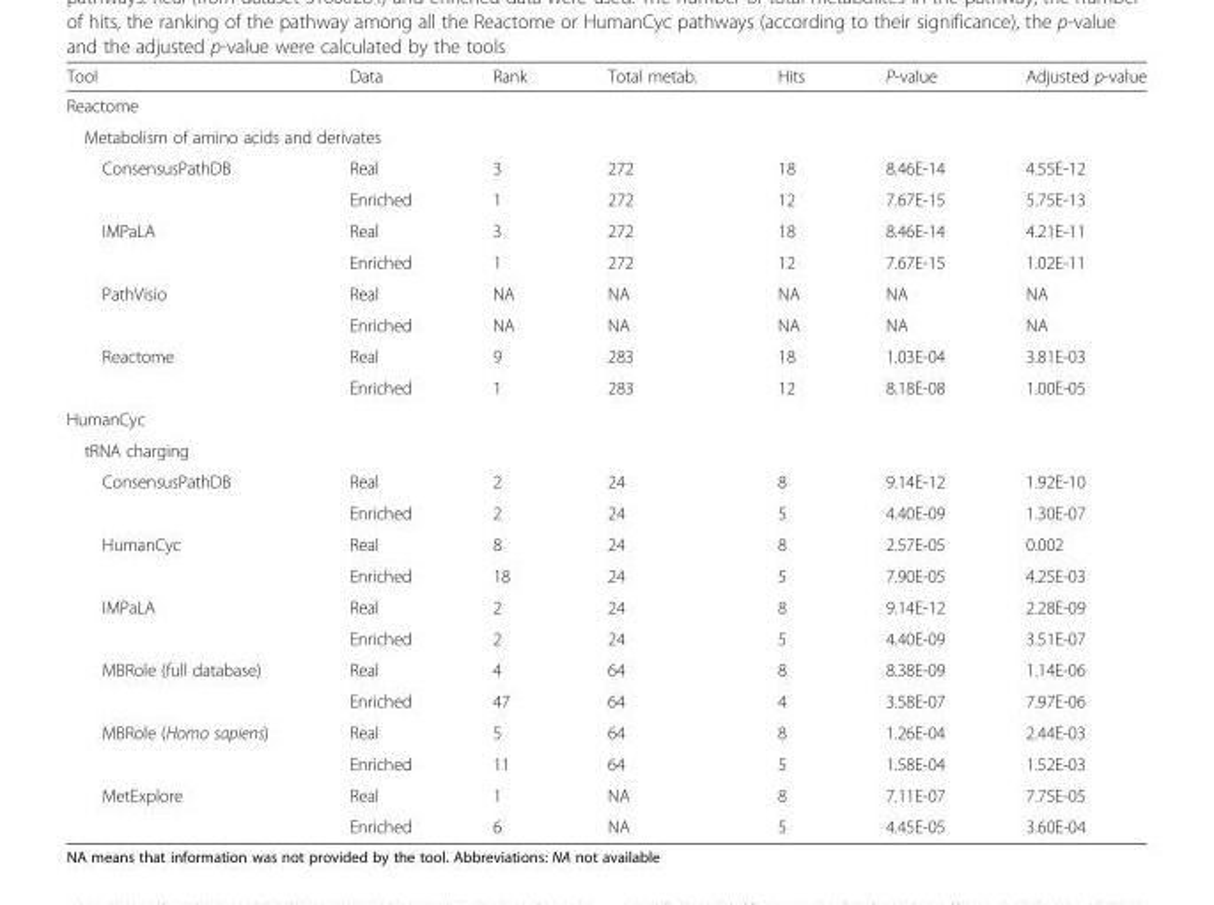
<table><thead><tr><td>Tool</td><td>Data</td><td>Rank</td><td>Total metab.</td><td>Hits</td><td>P-value</td><td>Adjusted p-value</td></tr></thead><tbody><tr><td colspan="7">Reactome</td></tr><tr><td colspan="7">Metabolism of amino acids and derivates</td></tr><tr><td rowspan="2">ConsensusPathDB</td><td>Real</td><td>3</td><td>272</td><td>18</td><td>8.46E-14</td><td>4.55E-12</td></tr><tr><td>Enriched</td><td>1</td><td>272</td><td>12</td><td>7.67E-15</td><td>5.75E-13</td></tr><tr><td rowspan="2">IMPaLA</td><td>Real</td><td>3</td><td>272</td><td>18</td><td>8.46E-14</td><td>4.21E-11</td></tr><tr><td>Enriched</td><td>1</td><td>272</td><td>12</td><td>7.67E-15</td><td>1.02E-11</td></tr><tr><td rowspan="2">PathVisio</td><td>Real</td><td>NA</td><td>NA</td><td>NA</td><td>NA</td><td>NA</td></tr><tr><td>Enriched</td><td>NA</td><td>NA</td><td>NA</td><td>NA</td><td>NA</td></tr><tr><td rowspan="2">Reactome</td><td>Real</td><td>9</td><td>283</td><td>18</td><td>1.03E-04</td><td>3.81E-03</td></tr><tr><td>Enriched</td><td>1</td><td>283</td><td>12</td><td>8.18E-08</td><td>1.00E-05</td></tr><tr><td colspan="7">HumanCyc</td></tr><tr><td colspan="7">tRNA charging</td></tr><tr><td rowspan="2">ConsensusPathDB</td><td>Real</td><td>2</td><td>24</td><td>8</td><td>9.14E-12</td><td>1.92E-10</td></tr><tr><td>Enriched</td><td>2</td><td>24</td><td>5</td><td>4.40E-09</td><td>1.30E-07</td></tr><tr><td rowspan="2">HumanCyc</td><td>Real</td><td>8</td><td>24</td><td>8</td><td>2.57E-05</td><td>0.002</td></tr><tr><td>Enriched</td><td>18</td><td>24</td><td>5</td><td>7.90E-05</td><td>4.25E-03</td></tr><tr><td rowspan="2">IMPaLA</td><td>Real</td><td>2</td><td>24</td><td>8</td><td>9.14E-12</td><td>2.28E-09</td></tr><tr><td>Enriched</td><td>2</td><td>24</td><td>5</td><td>4.40E-09</td><td>3.51E-07</td></tr><tr><td rowspan="2">MBRole (full database)</td><td>Real</td><td>4</td><td>64</td><td>8</td><td>8.38E-09</td><td>1.14E-06</td></tr><tr><td>Enriched</td><td>47</td><td>64</td><td>4</td><td>3.58E-07</td><td>7.97E-06</td></tr><tr><td rowspan="2">MBRole (Homo sapiens)</td><td>Real</td><td>5</td><td>64</td><td>8</td><td>1.26E-04</td><td>2.44E-03</td></tr><tr><td>Enriched</td><td>11</td><td>64</td><td>5</td><td>1.58E-04</td><td>1.52E-03</td></tr><tr><td rowspan="2">MetExplore</td><td>Real</td><td>1</td><td>NA</td><td>8</td><td>7.11E-07</td><td>7.75E-05</td></tr><tr><td>Enriched</td><td>6</td><td>NA</td><td>5</td><td>4.45E-05</td><td>3.60E-04</td></tr></tbody></table>